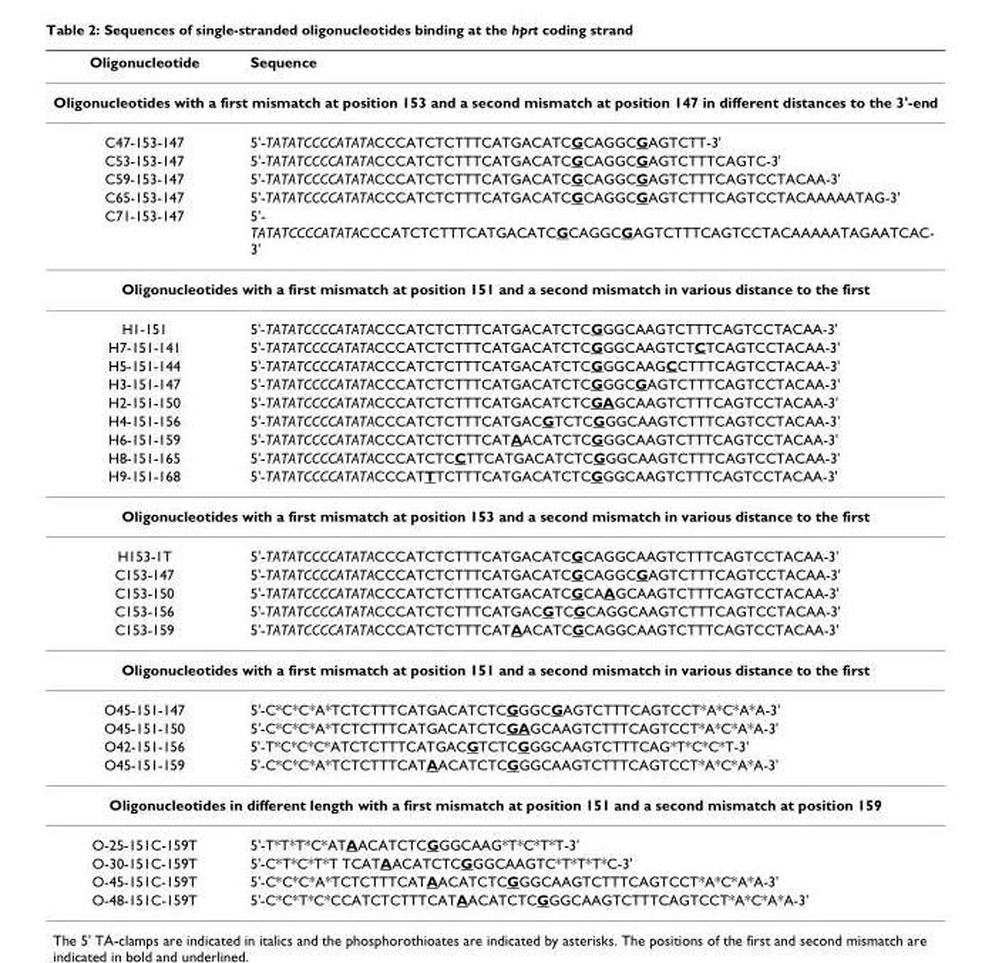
<table><thead><tr><td>Oligonucleotide</td><td>Sequence</td></tr></thead><tbody><tr><td colspan="2">Oligonucleotides with a first mismatch at position 153 and a second mismatch at position 147 in different distances to the 3&#x27;-end</td></tr><tr><td>C47-153-147</td><td>5&#x27;-TATATCCCCATATACCCATCTCTTTCATGACATCGCAGGCGAGTCTT-3&#x27;</td></tr><tr><td>C53-153-147</td><td>5&#x27;-TATATCCCCATATACCCATCTCTTTCATGACATCGCAGGCGAGTCTTTCAGTC-3&#x27;</td></tr><tr><td>C59-153-147</td><td>5&#x27;-TATATCCCCATATACCCATCTCTTTCATGACATCGCAGGCGAGTCTTTCAGTCCTACAA-3&#x27;</td></tr><tr><td>C65-153-147</td><td>5&#x27;-TATATCCCCATATACCCATCTCTTTCATGACATCGCAGGCGAGTCTTTCAGTCCTACAAAAATAG-3&#x27;</td></tr><tr><td>C71-153-147</td><td>5&#x27;- TATATCCCCATATACCCATCTCTTTCATGACATCGCAGGCGAGTCTTTCAGTCCTACAAAAATAGAATCAC- 3&#x27;</td></tr><tr><td colspan="2">Oligonucleotides with a first mismatch at position 151 and a second mismatch in various distance to the first</td></tr><tr><td>H1-151</td><td>5&#x27;-TATATCCCCATATACCCATCTCTTTCATGACATCTCGGGCAAGTCTTTCAGTCCTACAA-3&#x27;</td></tr><tr><td>H7-151-141</td><td>5&#x27;-TATATCCCCATATACCCATCTCTTTCATGACATCTCGGGCAAGTCTCTCAGTCCTACAA-3&#x27;</td></tr><tr><td>H5-151-144</td><td>5&#x27;-TATATCCCCATATACCCATCTCTTTCATGACATCTCGGGCAAGCCTTTCAGTCCTACAA-3&#x27;</td></tr><tr><td>H3-151-147</td><td>5&#x27;-TATATCCCCATATACCCATCTCTTTCATGACATCTCGGGCGAGTCTTTCAGTCCTACAA-3&#x27;</td></tr><tr><td>H2-151-150</td><td>5&#x27;-TATATCCCCATATACCCATCTCTTTCATGACATCTCGAGCAAGTCTTTCAGTCCTACAA-3&#x27;</td></tr><tr><td>H4-151-156</td><td>5&#x27;-TATATCCCCATATACCCATCTCTTTCATGACGTCTCGGGCAAGTCTTTCAGTCCTACAA-3&#x27;</td></tr><tr><td>H6-151-159</td><td>5&#x27;-TATATCCCCATATACCCATCTCTTTCATAACATCTCGGGCAAGTCTTTCAGTCCTACAA-3&#x27;</td></tr><tr><td>H8-151-165</td><td>5&#x27;-TATATCCCCATATACCCATCTCCTTCATGACATCTCGGGCAAGTCTTTCAGTCCTACAA-3&#x27;</td></tr><tr><td>H9-151-168</td><td>5&#x27;-TATATCCCCATATACCCATTTCTTTCATGACATCTCGGGCAAGTCTTTCAGTCCTACAA-3&#x27;</td></tr><tr><td colspan="2">Oligonucleotides with a first mismatch at position 153 and a second mismatch in various distance to the first</td></tr><tr><td>H153-1T</td><td>5&#x27;-TATATCCCCATATACCCATCTCTTTCATGACATCGCAGGCAAGTCTTTCAGTCCTACAA-3&#x27;</td></tr><tr><td>C153-147</td><td>5&#x27;-TATATCCCCATATACCCATCTCTTTCATGACATCGCAGGCGAGTCTTTCAGTCCTACAA-3&#x27;</td></tr><tr><td>C153-150</td><td>5&#x27;-TATATCCCCATATACCCATCTCTTTCATGACATCGCAAGCAAGTCTTTCAGTCCTACAA-3&#x27;</td></tr><tr><td>C153-156</td><td>5&#x27;-TATATCCCCATATACCCATCTCTTTCATGACGTCGCAGGCAAGTCTTTCAGTCCTACAA-3&#x27;</td></tr><tr><td>C153-159</td><td>5&#x27;-TATATCCCCATATACCCATCTCTTTCATAACATCGCAGGCAAGTCTTTCAGTCCTACAA-3&#x27;</td></tr><tr><td colspan="2">Oligonucleotides with a first mismatch at position 151 and a second mismatch in various distance to the first</td></tr><tr><td>O45-151-147</td><td>5&#x27;-C*C*C*A*TCTCTTTCATGACATCTCGGGCGAGTCTTTCAGTCCT*A*C*A*A-3&#x27;</td></tr><tr><td>O45-151-150</td><td>5&#x27;-C*C*C*A*TCTCTTTCATGACATCTCGAGCAAGTCTTTCAGTCCT*A*C*A*A-3&#x27;</td></tr><tr><td>O42-151-156</td><td>5&#x27;-T*C*C*C*ATCTCTTTCATGACGTCTCGGGCAAGTCTTTCAG*T*C*C*T-3&#x27;</td></tr><tr><td>O45-151-159</td><td>5&#x27;-C*C*C*A*TCTCTTTCATAACATCTCGGGCAAGTCTTTCAGTCCT*A*C*A*A-3&#x27;</td></tr><tr><td colspan="2">Oligonucleotides in different length with a first mismatch at position 151 and a second mismatch at position 159</td></tr><tr><td>O-25-151C-159T</td><td>5&#x27;-T*T*T*C*ATAACATCTCGGGCAAG*T*C*T*T-3&#x27;</td></tr><tr><td>O-30-151C-159T</td><td>5&#x27;-C*T*C*T*T TCATAACATCTCGGGCAAGTC*T*T*T*C-3&#x27;</td></tr><tr><td>O-45-151C-159T</td><td>5&#x27;-C*C*C*A*TCTCTTTCATAACATCTCGGGCAAGTCTTTCAGTCCT*A*C*A*A-3&#x27;</td></tr><tr><td>O-48-151C-159T</td><td>5&#x27;-C*C*T*C*CCATCTCTTTCATAACATCTCGGGCAAGTCTTTCAGTCCT*A*C*A*A-3&#x27;</td></tr></tbody></table>